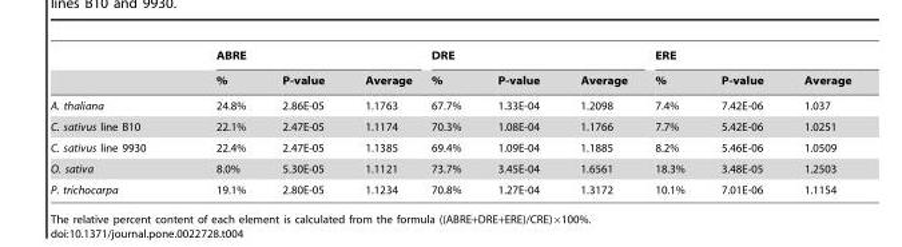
<table><thead><tr><td rowspan="2"></td><td colspan="3">ABRE</td><td colspan="3">DRE</td><td colspan="3">ERE</td></tr><tr><td>%</td><td>P-value</td><td>Average</td><td>%</td><td>P-value</td><td>Average</td><td>%</td><td>P-value</td><td>Average</td></tr></thead><tbody><tr><td>A. thaliana</td><td>24.8%</td><td>2.86E-05</td><td>1.1763</td><td>67.7%</td><td>1.33E-04</td><td>1.2098</td><td>7.4%</td><td>7.42E-06</td><td>1.037</td></tr><tr><td>C. sativus line B10</td><td>22.1%</td><td>2.47E-05</td><td>1.1174</td><td>70.3%</td><td>1.08E-04</td><td>1.1766</td><td>7.7%</td><td>5.42E-06</td><td>1.0251</td></tr><tr><td>C. sativus line 9930</td><td>22.4%</td><td>2.47E-05</td><td>1.1385</td><td>69.4%</td><td>1.09E-04</td><td>1.1885</td><td>8.2%</td><td>5.46E-06</td><td>1.0509</td></tr><tr><td>O. sativa</td><td>8.0%</td><td>5.30E-05</td><td>1.1121</td><td>73.7%</td><td>3.45E-04</td><td>1.6561</td><td>18.3%</td><td>3.48E-05</td><td>1.2503</td></tr><tr><td>P. trichocarpa</td><td>19.1%</td><td>2.80E-05</td><td>1.1234</td><td>70.8%</td><td>1.27E-04</td><td>1.3172</td><td>10.1%</td><td>7.01E-06</td><td>1.1154</td></tr></tbody></table>